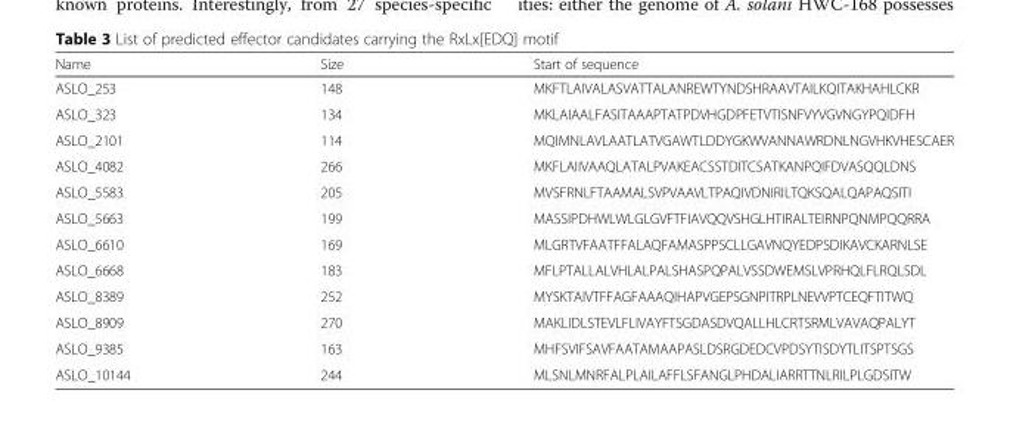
<table><thead><tr><td>Name</td><td>Size</td><td>Start of sequence</td></tr></thead><tbody><tr><td>ASLO_253</td><td>148</td><td>MKFTLAIVALASVATTALANREWTYNDSHRAAVTAILKQITAKHAHLCKR</td></tr><tr><td>ASLO_323</td><td>134</td><td>MKLAIAALFASITAAAPTATPDVHGDPFETVTISNFVYVGVNGYPQIDFH</td></tr><tr><td>ASLO_2101</td><td>114</td><td>MQIMNLAVLAATLATVGAWTLDDYGKWVANNAWRDNLNGVHKVHESCAER</td></tr><tr><td>ASLO_4082</td><td>266</td><td>MKFLAIIVAAQLATALPVAKEACSSTDITCSATKANPQIFDVASQQLDNS</td></tr><tr><td>ASLO_5583</td><td>205</td><td>MVSFRNLFTAAMALSVPVAAVLTPAQIVDNIRILTQKSQALQAPAQSITI</td></tr><tr><td>ASLO_5663</td><td>199</td><td>MASSIPDHWLWLGLGVFTFIAVQQVSHGLHTIRALTEIRNPQNMPQQRRA</td></tr><tr><td>ASLO_6610</td><td>169</td><td>MLGRTVFAATFFALAQFAMASPPSCLLGAVNQYEDPSDIKAVCKARNLSE</td></tr><tr><td>ASLO_6668</td><td>183</td><td>MFLPTALLALVHLALPALSHASPQPALVSSDWEMSLVPRHQLFLRQLSDL</td></tr><tr><td>ASLO_8389</td><td>252</td><td>MYSKTAIVTFFAGFAAAQIHAPVGEPSGNPITRPLNEVVPTCEQFTITWQ</td></tr><tr><td>ASLO_8909</td><td>270</td><td>MAKLIDLSTEVLFLIVAYFTSGDASDVQALLHLCRTSRMLVAVAQPALYT</td></tr><tr><td>ASLO_9385</td><td>163</td><td>MHFSVIFSAVFAATAMAAPASLDSRGDEDCVPDSYTISDYTLITSPTSGS</td></tr><tr><td>ASLO_10144</td><td>244</td><td>MLSNLMNRFALPLAILAFFLSFANGLPHDALIARRTTNLRILPLGDSITW</td></tr></tbody></table>